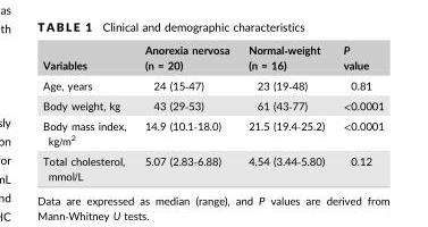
<table><thead><tr><td>Variables</td><td>Anorexia nervosa (n = 20)</td><td>Normal‐weight (n = 16)</td><td>P value</td></tr></thead><tbody><tr><td>Age, years</td><td>24 (15‐47)</td><td>23 (19‐48)</td><td>0.81</td></tr><tr><td>Body weight, kg</td><td>43 (29‐53)</td><td>61 (43‐77)</td><td>&lt;0.0001</td></tr><tr><td>Body mass index, kg/m<sup>2</sup></td><td>14.9 (10.1‐18.0)</td><td>21.5 (19.4‐25.2)</td><td>&lt;0.0001</td></tr><tr><td>Total cholesterol, mmol/L</td><td>5.07 (2.83‐6.88)</td><td>4.54 (3.44‐5.80)</td><td>0.12</td></tr></tbody></table>